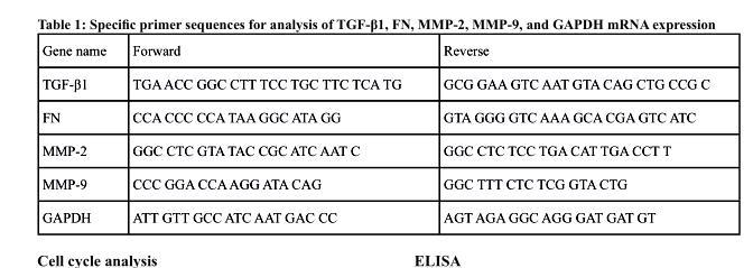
<table><thead><tr><td>Gene name</td><td>Forward</td><td>Reverse</td></tr></thead><tbody><tr><td>TGF-β1</td><td>TGA ACC GGC CTT TCC TGC TTC TCA TG</td><td>GCG GAA GTC AAT GTA CAG CTG CCG C</td></tr><tr><td>FN</td><td>CCA CCC CCA TAA GGC ATA GG</td><td>GTA GGG GTC AAA GCA CGA GTC ATC</td></tr><tr><td>MMP-2</td><td>GGC CTC GTA TAC CGC ATC AAT C</td><td>GGC CTC TCC TGA CAT TGA CCT T</td></tr><tr><td>MMP-9</td><td>CCC GGA CCA AGG ATA CAG</td><td>GGC TTT CTC TCG GTA CTG</td></tr><tr><td>GAPDH</td><td>ATT GTT GCC ATC AAT GAC CC</td><td>AGT AGA GGC AGG GAT GAT GT</td></tr></tbody></table>